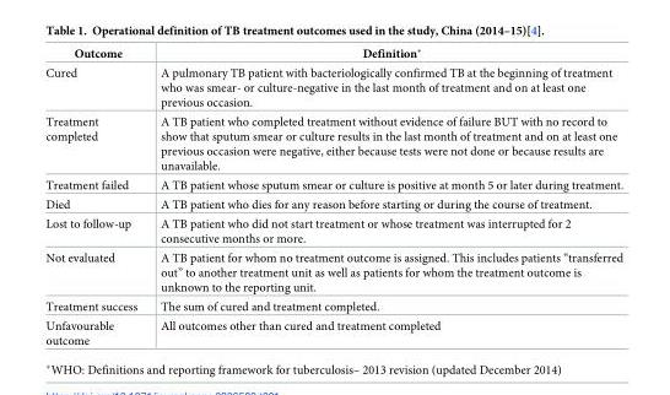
<table><thead><tr><td>Outcome</td><td>Definition*</td></tr></thead><tbody><tr><td>Cured</td><td>A pulmonary TB patient with bacteriologically confirmed TB at the beginning of treatment who was smear- or culture-negative in the last month of treatment and on at least one previous occasion.</td></tr><tr><td>Treatment completed</td><td>A TB patient who completed treatment without evidence of failure BUT with no record to show that sputum smear or culture results in the last month of treatment and on at least one previous occasion were negative, either because tests were not done or because results are unavailable.</td></tr><tr><td>Treatment failed</td><td>A TB patient whose sputum smear or culture is positive at month 5 or later during treatment.</td></tr><tr><td>Died</td><td>A TB patient who dies for any reason before starting or during the course of treatment.</td></tr><tr><td>Lost to follow-up</td><td>A TB patient who did not start treatment or whose treatment was interrupted for 2 consecutive months or more.</td></tr><tr><td>Not evaluated</td><td>A TB patient for whom no treatment outcome is assigned. This includes patients “transferred out” to another treatment unit as well as patients for whom the treatment outcome is unknown to the reporting unit.</td></tr><tr><td>Treatment success</td><td>The sum of cured and treatment completed.</td></tr><tr><td>Unfavourable outcome</td><td>All outcomes other than cured and treatment completed</td></tr></tbody></table>